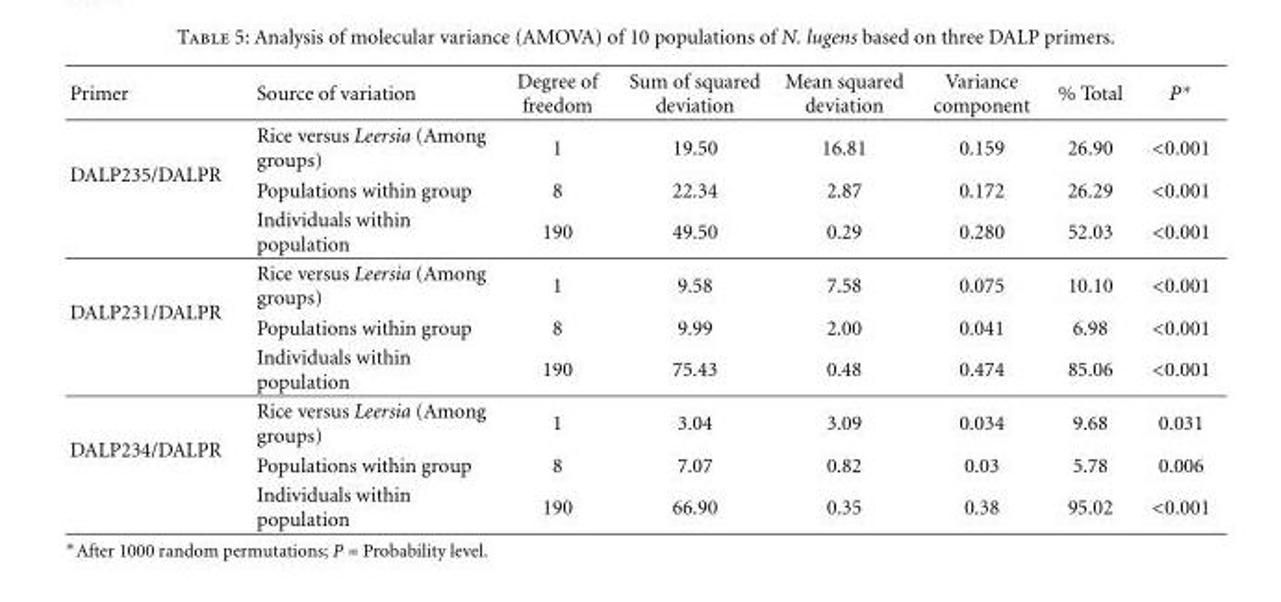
<table><thead><tr><td>Primer</td><td>Source of variation</td><td>Degree of freedom</td><td>Sum of squared deviation</td><td>Mean squared deviation</td><td>Variance component</td><td>% Total</td><td>P∗</td></tr></thead><tbody><tr><td rowspan="3">DALP235/DALPR</td><td>Rice versus Leersia (Among groups)</td><td>1</td><td>19.50</td><td>16.81</td><td>0.159</td><td>26.90</td><td>&lt;0.001</td></tr><tr><td>Populations within group</td><td>8</td><td>22.34</td><td>2.87</td><td>0.172</td><td>26.29</td><td>&lt;0.001</td></tr><tr><td>Individuals within population</td><td>190</td><td>49.50</td><td>0.29</td><td>0.280</td><td>52.03</td><td>&lt;0.001</td></tr><tr><td rowspan="3">DALP231/DALPR</td><td>Rice versus Leersia (Among groups)</td><td>1</td><td>9.58</td><td>7.58</td><td>0.075</td><td>10.10</td><td>&lt;0.001</td></tr><tr><td>Populations within group</td><td>8</td><td>9.99</td><td>2.00</td><td>0.041</td><td>6.98</td><td>&lt;0.001</td></tr><tr><td>Individuals within population</td><td>190</td><td>75.43</td><td>0.48</td><td>0.474</td><td>85.06</td><td>&lt;0.001</td></tr><tr><td rowspan="3">DALP234/DALPR</td><td>Rice versus Leersia (Among groups)</td><td>1</td><td>3.04</td><td>3.09</td><td>0.034</td><td>9.68</td><td>0.031</td></tr><tr><td>Populations within group</td><td>8</td><td>7.07</td><td>0.82</td><td>0.03</td><td>5.78</td><td>0.006</td></tr><tr><td>Individuals within population</td><td>190</td><td>66.90</td><td>0.35</td><td>0.38</td><td>95.02</td><td>&lt;0.001</td></tr></tbody></table>